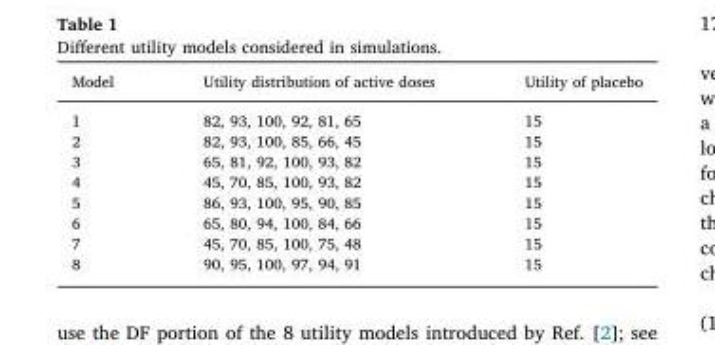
<table><thead><tr><td>Model</td><td>Utility distribution of active doses</td><td>Utility of placebo</td></tr></thead><tbody><tr><td>1</td><td>82, 93, 100, 92, 81, 65</td><td>15</td></tr><tr><td>2</td><td>82, 93, 100, 85, 66, 45</td><td>15</td></tr><tr><td>3</td><td>65, 81, 92, 100, 93, 82</td><td>15</td></tr><tr><td>4</td><td>45, 70, 85, 100, 93, 82</td><td>15</td></tr><tr><td>5</td><td>86, 93, 100, 95, 90, 85</td><td>15</td></tr><tr><td>6</td><td>65, 80, 94, 100, 84, 66</td><td>15</td></tr><tr><td>7</td><td>45, 70, 85, 100, 75, 48</td><td>15</td></tr><tr><td>8</td><td>90, 95, 100, 97, 94, 91</td><td>15</td></tr></tbody></table>